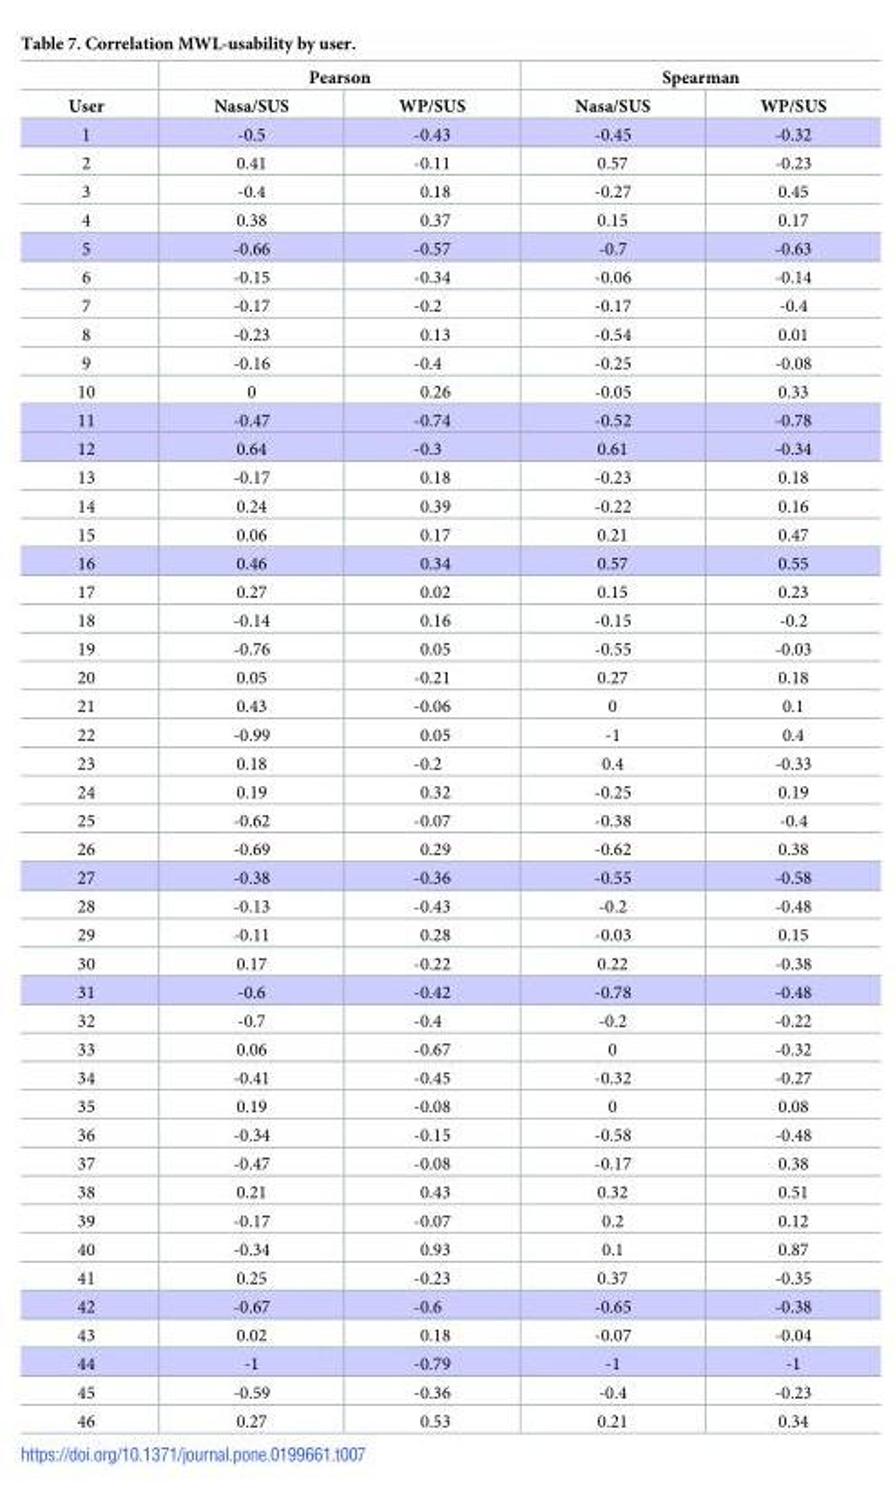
<table><thead><tr><td rowspan="2">User</td><td colspan="2">Pearson</td><td colspan="2">Spearman</td></tr><tr><td>Nasa/SUS</td><td>WP/SUS</td><td>Nasa/SUS</td><td>WP/SUS</td></tr></thead><tbody><tr><td>1</td><td>-0.5</td><td>-0.43</td><td>-0.45</td><td>-0.32</td></tr><tr><td>2</td><td>0.41</td><td>-0.11</td><td>0.57</td><td>-0.23</td></tr><tr><td>3</td><td>-0.4</td><td>0.18</td><td>-0.27</td><td>0.45</td></tr><tr><td>4</td><td>0.38</td><td>0.37</td><td>0.15</td><td>0.17</td></tr><tr><td>5</td><td>-0.66</td><td>-0.57</td><td>-0.7</td><td>-0.63</td></tr><tr><td>6</td><td>-0.15</td><td>-0.34</td><td>-0.06</td><td>-0.14</td></tr><tr><td>7</td><td>-0.17</td><td>-0.2</td><td>-0.17</td><td>-0.4</td></tr><tr><td>8</td><td>-0.23</td><td>0.13</td><td>-0.54</td><td>0.01</td></tr><tr><td>9</td><td>-0.16</td><td>-0.4</td><td>-0.25</td><td>-0.08</td></tr><tr><td>10</td><td>0</td><td>0.26</td><td>-0.05</td><td>0.33</td></tr><tr><td>11</td><td>-0.47</td><td>-0.74</td><td>-0.52</td><td>-0.78</td></tr><tr><td>12</td><td>0.64</td><td>-0.3</td><td>0.61</td><td>-0.34</td></tr><tr><td>13</td><td>-0.17</td><td>0.18</td><td>-0.23</td><td>0.18</td></tr><tr><td>14</td><td>0.24</td><td>0.39</td><td>-0.22</td><td>0.16</td></tr><tr><td>15</td><td>0.06</td><td>0.17</td><td>0.21</td><td>0.47</td></tr><tr><td>16</td><td>0.46</td><td>0.34</td><td>0.57</td><td>0.55</td></tr><tr><td>17</td><td>0.27</td><td>0.02</td><td>0.15</td><td>0.23</td></tr><tr><td>18</td><td>-0.14</td><td>0.16</td><td>-0.15</td><td>-0.2</td></tr><tr><td>19</td><td>-0.76</td><td>0.05</td><td>-0.55</td><td>-0.03</td></tr><tr><td>20</td><td>0.05</td><td>-0.21</td><td>0.27</td><td>0.18</td></tr><tr><td>21</td><td>0.43</td><td>-0.06</td><td>0</td><td>0.1</td></tr><tr><td>22</td><td>-0.99</td><td>0.05</td><td>-1</td><td>0.4</td></tr><tr><td>23</td><td>0.18</td><td>-0.2</td><td>0.4</td><td>-0.33</td></tr><tr><td>24</td><td>0.19</td><td>0.32</td><td>-0.25</td><td>0.19</td></tr><tr><td>25</td><td>-0.62</td><td>-0.07</td><td>-0.38</td><td>-0.4</td></tr><tr><td>26</td><td>-0.69</td><td>0.29</td><td>-0.62</td><td>0.38</td></tr><tr><td>27</td><td>-0.38</td><td>-0.36</td><td>-0.55</td><td>-0.58</td></tr><tr><td>28</td><td>-0.13</td><td>-0.43</td><td>-0.2</td><td>-0.48</td></tr><tr><td>29</td><td>-0.11</td><td>0.28</td><td>-0.03</td><td>0.15</td></tr><tr><td>30</td><td>0.17</td><td>-0.22</td><td>0.22</td><td>-0.38</td></tr><tr><td>31</td><td>-0.6</td><td>-0.42</td><td>-0.78</td><td>-0.48</td></tr><tr><td>32</td><td>-0.7</td><td>-0.4</td><td>-0.2</td><td>-0.22</td></tr><tr><td>33</td><td>0.06</td><td>-0.67</td><td>0</td><td>-0.32</td></tr><tr><td>34</td><td>-0.41</td><td>-0.45</td><td>-0.32</td><td>-0.27</td></tr><tr><td>35</td><td>0.19</td><td>-0.08</td><td>0</td><td>0.08</td></tr><tr><td>36</td><td>-0.34</td><td>-0.15</td><td>-0.58</td><td>-0.48</td></tr><tr><td>37</td><td>-0.47</td><td>-0.08</td><td>-0.17</td><td>0.38</td></tr><tr><td>38</td><td>0.21</td><td>0.43</td><td>0.32</td><td>0.51</td></tr><tr><td>39</td><td>-0.17</td><td>-0.07</td><td>0.2</td><td>0.12</td></tr><tr><td>40</td><td>-0.34</td><td>0.93</td><td>0.1</td><td>0.87</td></tr><tr><td>41</td><td>0.25</td><td>-0.23</td><td>0.37</td><td>-0.35</td></tr><tr><td>42</td><td>-0.67</td><td>-0.6</td><td>-0.65</td><td>-0.38</td></tr><tr><td>43</td><td>0.02</td><td>0.18</td><td>-0.07</td><td>-0.04</td></tr><tr><td>44</td><td>-1</td><td>-0.79</td><td>-1</td><td>-1</td></tr><tr><td>45</td><td>-0.59</td><td>-0.36</td><td>-0.4</td><td>-0.23</td></tr><tr><td>46</td><td>0.27</td><td>0.53</td><td>0.21</td><td>0.34</td></tr></tbody></table>